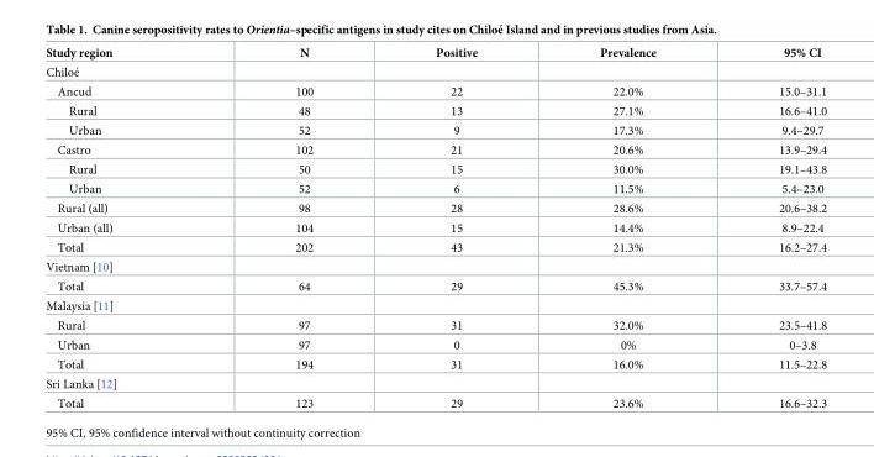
<table><thead><tr><td>Study region</td><td>N</td><td>Positive</td><td>Prevalence</td><td>95% CI</td></tr></thead><tbody><tr><td colspan="5">Chiloe´</td></tr><tr><td>Ancud</td><td>100</td><td>22</td><td>22.0%</td><td>15.0–31.1</td></tr><tr><td>Rural</td><td>48</td><td>13</td><td>27.1%</td><td>16.6–41.0</td></tr><tr><td>Urban</td><td>52</td><td>9</td><td>17.3%</td><td>9.4–29.7</td></tr><tr><td>Castro</td><td>102</td><td>21</td><td>20.6%</td><td>13.9–29.4</td></tr><tr><td>Rural</td><td>50</td><td>15</td><td>30.0%</td><td>19.1–43.8</td></tr><tr><td>Urban</td><td>52</td><td>6</td><td>11.5%</td><td>5.4–23.0</td></tr><tr><td>Rural (all)</td><td>98</td><td>28</td><td>28.6%</td><td>20.6–38.2</td></tr><tr><td>Urban (all)</td><td>104</td><td>15</td><td>14.4%</td><td>8.9–22.4</td></tr><tr><td>Total</td><td>202</td><td>43</td><td>21.3%</td><td>16.2–27.4</td></tr><tr><td colspan="5">Vietnam [10]</td></tr><tr><td>Total</td><td>64</td><td>29</td><td>45.3%</td><td>33.7–57.4</td></tr><tr><td colspan="5">Malaysia [11]</td></tr><tr><td>Rural</td><td>97</td><td>31</td><td>32.0%</td><td>23.5–41.8</td></tr><tr><td>Urban</td><td>97</td><td>0</td><td>0%</td><td>0–3.8</td></tr><tr><td>Total</td><td>194</td><td>31</td><td>16.0%</td><td>11.5–22.8</td></tr><tr><td colspan="5">Sri Lanka [12]</td></tr><tr><td>Total</td><td>123</td><td>29</td><td>23.6%</td><td>16.6–32.3</td></tr></tbody></table>